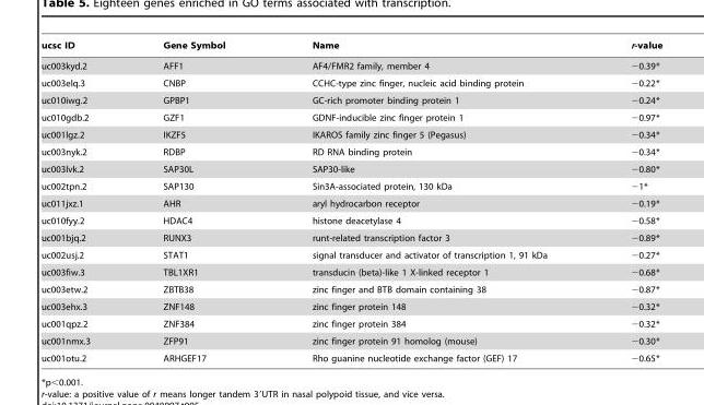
<table><thead><tr><td>ucsc ID</td><td>Gene Symbol</td><td>Name</td><td>r-value</td></tr></thead><tbody><tr><td>uc003kyd.2</td><td>AFF1</td><td>AF4/FMR2 family, member 4</td><td>−0.39*</td></tr><tr><td>uc003elq.3</td><td>CNBP</td><td>CCHC-type zinc finger, nucleic acid binding protein</td><td>−0.22*</td></tr><tr><td>uc010iwg.2</td><td>GPBP1</td><td>GC-rich promoter binding protein 1</td><td>−0.24*</td></tr><tr><td>uc010gdb.2</td><td>GZF1</td><td>GDNF-inducible zinc finger protein 1</td><td>−0.97*</td></tr><tr><td>uc001lgz.2</td><td>IKZF5</td><td>IKAROS family zinc finger 5 (Pegasus)</td><td>−0.34*</td></tr><tr><td>uc003nyk.2</td><td>RDBP</td><td>RD RNA binding protein</td><td>−0.34*</td></tr><tr><td>uc003lvk.2</td><td>SAP30L</td><td>SAP30-like</td><td>−0.80*</td></tr><tr><td>uc002tpn.2</td><td>SAP130</td><td>Sin3A-associated protein, 130 kDa</td><td>−1*</td></tr><tr><td>uc011jxz.1</td><td>AHR</td><td>aryl hydrocarbon receptor</td><td>−0.19*</td></tr><tr><td>uc010fyy.2</td><td>HDAC4</td><td>histone deacetylase 4</td><td>−0.58*</td></tr><tr><td>uc001bjq.2</td><td>RUNX3</td><td>runt-related transcription factor 3</td><td>−0.89*</td></tr><tr><td>uc002usj.2</td><td>STAT1</td><td>signal transducer and activator of transcription 1, 91 kDa</td><td>−0.27*</td></tr><tr><td>uc003fiw.3</td><td>TBL1XR1</td><td>transducin (beta)-like 1 X-linked receptor 1</td><td>−0.68*</td></tr><tr><td>uc003etw.2</td><td>ZBTB38</td><td>zinc finger and BTB domain containing 38</td><td>−0.87*</td></tr><tr><td>uc003ehx.3</td><td>ZNF148</td><td>zinc finger protein 148</td><td>−0.32*</td></tr><tr><td>uc001qpz.2</td><td>ZNF384</td><td>zinc finger protein 384</td><td>−0.32*</td></tr><tr><td>uc001nmx.3</td><td>ZFP91</td><td>zinc finger protein 91 homolog (mouse)</td><td>−0.30*</td></tr><tr><td>uc001otu.2</td><td>ARHGEF17</td><td>Rho guanine nucleotide exchange factor (GEF) 17</td><td>−0.65*</td></tr></tbody></table>